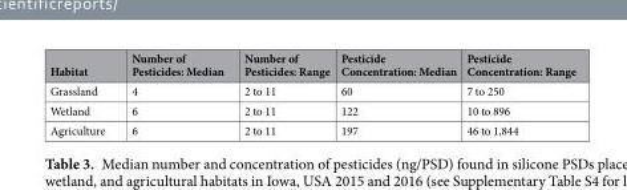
<table><thead><tr><td>Habitat</td><td>Number of Pesticides: Median</td><td>Number of Pesticides: Range</td><td>Pesticide Concentration: Median</td><td>Pesticide Concentration: Range</td></tr></thead><tbody><tr><td>Grassland</td><td>4</td><td>2 to 11</td><td>60</td><td>7 to 250</td></tr><tr><td>Wetland</td><td>6</td><td>2 to 11</td><td>122</td><td>10 to 896</td></tr><tr><td>Agriculture</td><td>6</td><td>2 to 11</td><td>197</td><td>46 to 1,844</td></tr></tbody></table>